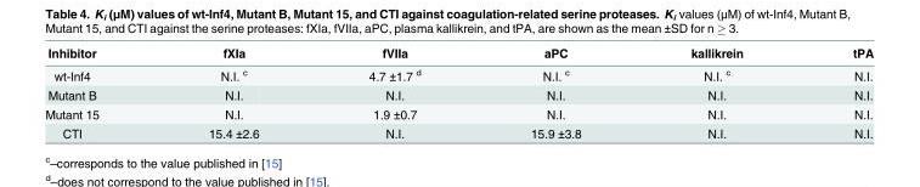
<table><thead><tr><td>Inhibitor</td><td>fXIa</td><td>fVIIa</td><td>aPC</td><td>kallikrein</td><td>tPA</td></tr></thead><tbody><tr><td>wt-Inf4</td><td>N.I. <sup>c</sup></td><td>4.7 ±1.7 <sup>d</sup></td><td>N.I. <sup>c</sup></td><td>N.I. <sup>c</sup></td><td>N.I.</td></tr><tr><td>Mutant B</td><td>N.I.</td><td>N.I.</td><td>N.I.</td><td>N.I.</td><td>N.I.</td></tr><tr><td>Mutant 15</td><td>N.I.</td><td>1.9 ±0.7</td><td>N.I.</td><td>N.I.</td><td>N.I.</td></tr><tr><td>CTI</td><td>15.4 ±2.6</td><td>N.I.</td><td>15.9 ±3.8</td><td>N.I.</td><td>N.I.</td></tr></tbody></table>